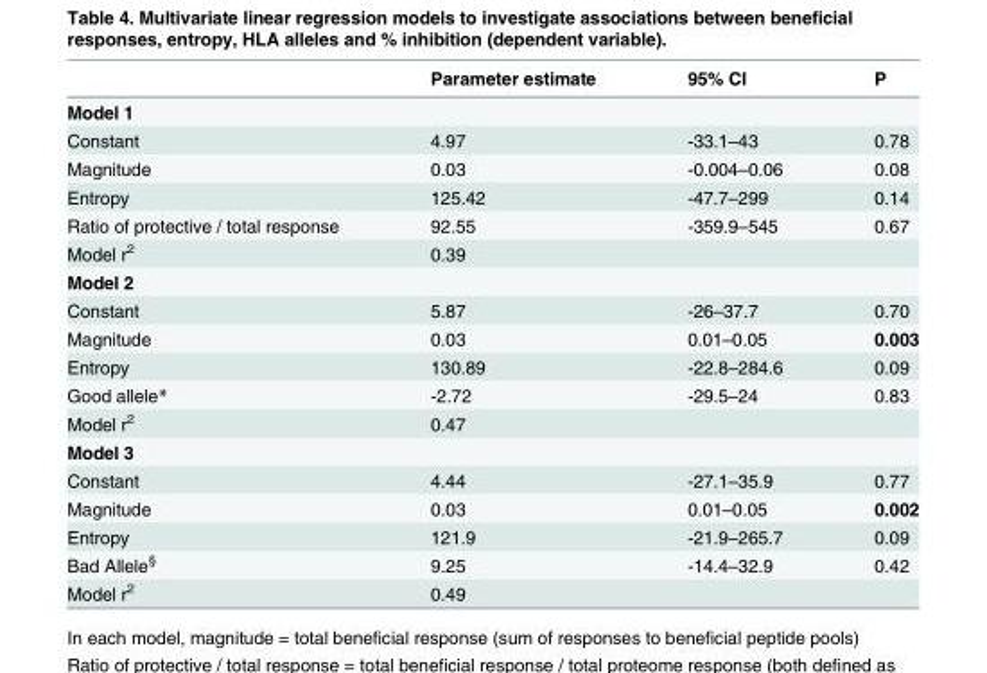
<table><thead><tr><td></td><td>Parameter estimate</td><td>95% CI</td><td>P</td></tr></thead><tbody><tr><td colspan="4">Model 1</td></tr><tr><td>Constant</td><td>4.97</td><td>-33.1–43</td><td>0.78</td></tr><tr><td>Magnitude</td><td>0.03</td><td>-0.004–0.06</td><td>0.08</td></tr><tr><td>Entropy</td><td>125.42</td><td>-47.7–299</td><td>0.14</td></tr><tr><td>Ratio of protective / total response</td><td>92.55</td><td>-359.9–545</td><td>0.67</td></tr><tr><td>Model r<sup>2</sup></td><td colspan="3">0.39</td></tr><tr><td colspan="4">Model 2</td></tr><tr><td>Constant</td><td>5.87</td><td>-26–37.7</td><td>0.70</td></tr><tr><td>Magnitude</td><td>0.03</td><td>0.01–0.05</td><td>0.003</td></tr><tr><td>Entropy</td><td>130.89</td><td>-22.8–284.6</td><td>0.09</td></tr><tr><td>Good allele*</td><td>-2.72</td><td>-29.5–24</td><td>0.83</td></tr><tr><td>Model r<sup>2</sup></td><td colspan="3">0.47</td></tr><tr><td colspan="4">Model 3</td></tr><tr><td>Constant</td><td>4.44</td><td>-27.1–35.9</td><td>0.77</td></tr><tr><td>Magnitude</td><td>0.03</td><td>0.01–0.05</td><td>0.002</td></tr><tr><td>Entropy</td><td>121.9</td><td>-21.9–265.7</td><td>0.09</td></tr><tr><td>Bad Allele<sup>§</sup></td><td>9.25</td><td>-14.4–32.9</td><td>0.42</td></tr><tr><td>Model r<sup>2</sup></td><td colspan="3">0.49</td></tr></tbody></table>